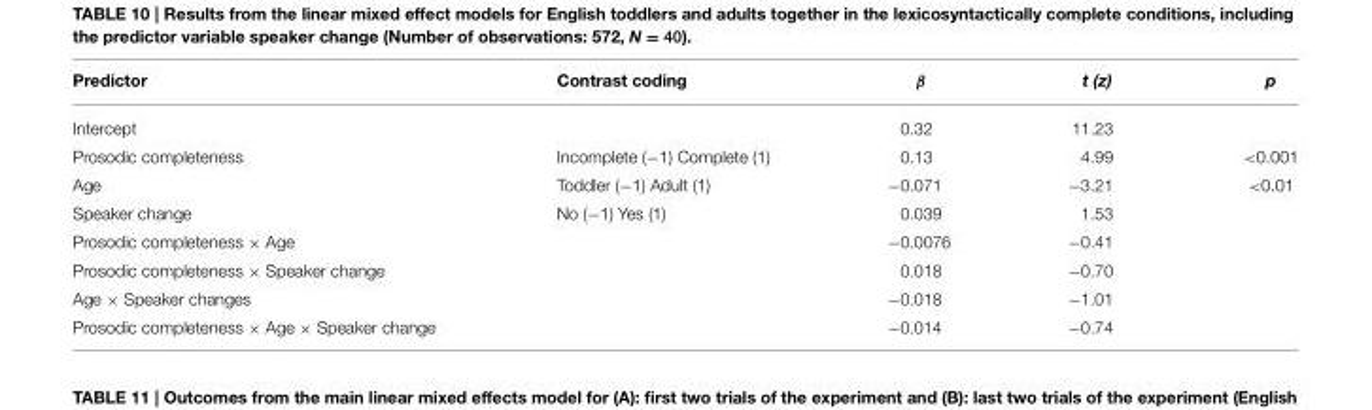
<table><thead><tr><td>Predictor</td><td>Contrast coding</td><td>β</td><td>t (z)</td><td>p</td></tr></thead><tbody><tr><td>Intercept</td><td></td><td>0.32</td><td>11.23</td><td></td></tr><tr><td>Prosodic completeness</td><td>Incomplete (−1) Complete (1)</td><td>0.13</td><td>4.99</td><td>&lt;0.001</td></tr><tr><td>Age</td><td>Toddler (−1) Adult (1)</td><td>−0.071</td><td>−3.21</td><td>&lt;0.01</td></tr><tr><td>Speaker change</td><td>No (−1) Yes (1)</td><td>0.039</td><td>1.53</td><td></td></tr><tr><td>Prosodic completeness × Age</td><td></td><td>−0.0076</td><td>−0.41</td><td></td></tr><tr><td>Prosodic completeness × Speaker change</td><td></td><td>0.018</td><td>−0.70</td><td></td></tr><tr><td>Age × Speaker changes</td><td></td><td>−0.018</td><td>−1.01</td><td></td></tr><tr><td>Prosodic completeness × Age × Speaker change</td><td></td><td>−0.014</td><td>−0.74</td><td></td></tr></tbody></table>